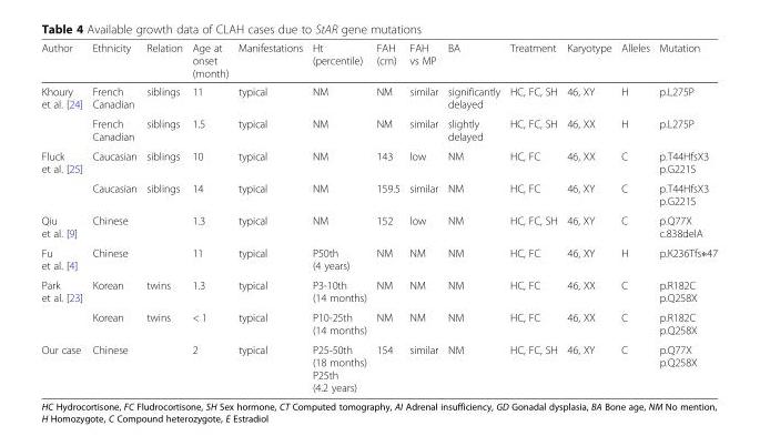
<table><thead><tr><td>Author</td><td>Ethnicity</td><td>Relation</td><td>Age at onset (month)</td><td>Manifestations</td><td>Ht (percentile)</td><td>FAH (cm)</td><td>FAH vs MP</td><td>BA</td><td>Treatment</td><td>Karyotype</td><td>Alleles</td><td>Mutation</td></tr></thead><tbody><tr><td rowspan="2">Khoury et al. [24]</td><td>French Canadian</td><td>siblings</td><td>11</td><td>typical</td><td>NM</td><td>NM</td><td>similar</td><td>significantly delayed</td><td>HC, FC, SH</td><td>46, XY</td><td>H</td><td>p.L275P</td></tr><tr><td>French Canadian</td><td>siblings</td><td>1.5</td><td>typical</td><td>NM</td><td>NM</td><td>similar</td><td>slightly delayed</td><td>HC, FC, SH</td><td>46, XX</td><td>H</td><td>p.L275P</td></tr><tr><td rowspan="2">Fluck et al. [25]</td><td>Caucasian</td><td>siblings</td><td>10</td><td>typical</td><td>NM</td><td>143</td><td>low</td><td>NM</td><td>HC, FC</td><td>46, XX</td><td>C</td><td>p.T44HfsX3 p.G221S</td></tr><tr><td>Caucasian</td><td>siblings</td><td>14</td><td>typical</td><td>NM</td><td>159.5</td><td>similar</td><td>NM</td><td>HC, FC</td><td>46, XY</td><td>C</td><td>p.T44HfsX3 p.G221S</td></tr><tr><td>Qiu et al. [9]</td><td>Chinese</td><td></td><td>1.3</td><td>typical</td><td>NM</td><td>152</td><td>low</td><td>NM</td><td>HC, FC, SH</td><td>46, XY</td><td>C</td><td>p.Q77X c.838delA</td></tr><tr><td>Fu et al. [4]</td><td>Chinese</td><td></td><td>11</td><td>typical</td><td>P50th (4 years)</td><td>NM</td><td>NM</td><td>NM</td><td>HC, FC</td><td>46, XY</td><td>H</td><td>p.K236Tfs∗47</td></tr><tr><td rowspan="2">Park et al. [23]</td><td>Korean</td><td>twins</td><td>1.3</td><td>typical</td><td>P3-10th (14 months)</td><td>NM</td><td>NM</td><td>NM</td><td>HC, FC</td><td>46, XX</td><td>C</td><td>p.R182C p.Q258X</td></tr><tr><td>Korean</td><td>twins</td><td>&lt; 1</td><td>typical</td><td>P10-25th (14 months)</td><td>NM</td><td>NM</td><td>NM</td><td>HC, FC</td><td>46, XX</td><td>C</td><td>p.R182C p.Q258X</td></tr><tr><td>Our case</td><td>Chinese</td><td></td><td>2</td><td>typical</td><td>P25-50th (18 months) P25th (4.2 years)</td><td>154</td><td>similar</td><td>NM</td><td>HC, FC, SH</td><td>46, XY</td><td>C</td><td>p.Q77X p.Q258X</td></tr></tbody></table>